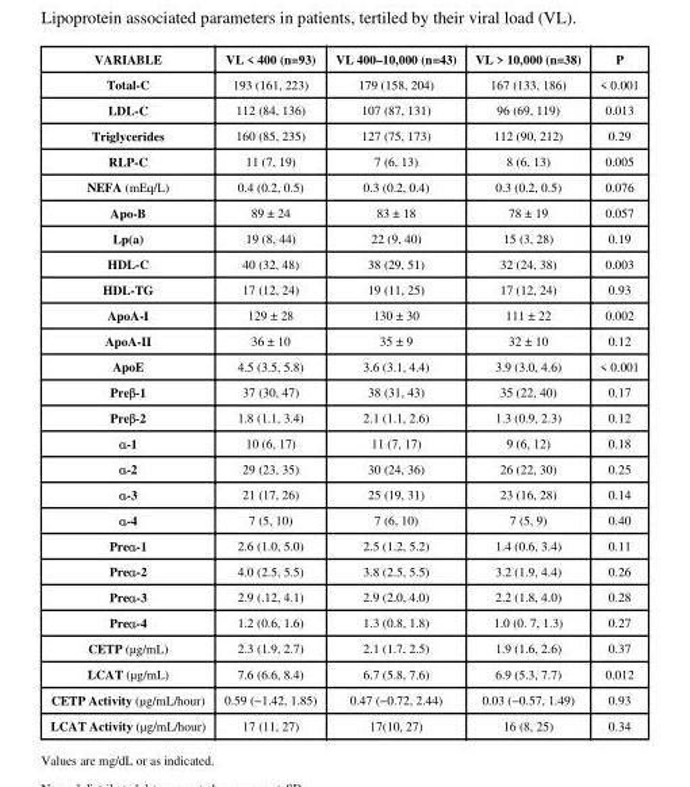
<table><thead><tr><td>VARIABLE</td><td>VL &lt; 400 (n=93)</td><td>VL 400–10,000 (n=43)</td><td>VL &gt; 10,000 (n=38)</td><td>P</td></tr></thead><tbody><tr><td>Total-C</td><td>193 (161, 223)</td><td>179 (158, 204)</td><td>167 (133, 186)</td><td>&lt; 0.001</td></tr><tr><td>LDL-C</td><td>112 (84, 136)</td><td>107 (87, 131)</td><td>96 (69, 119)</td><td>0.013</td></tr><tr><td>Triglycerides</td><td>160 (85, 235)</td><td>127 (75, 173)</td><td>112 (90, 212)</td><td>0.29</td></tr><tr><td>RLP-C</td><td>11 (7, 19)</td><td>7 (6, 13)</td><td>8 (6, 13)</td><td>0.005</td></tr><tr><td>NEFA (mEq/L)</td><td>0.4 (0.2, 0.5)</td><td>0.3 (0.2, 0.4)</td><td>0.3 (0.2, 0.5)</td><td>0.076</td></tr><tr><td>Apo-B</td><td>89 ± 24</td><td>83 ± 18</td><td>78 ± 19</td><td>0.057</td></tr><tr><td>Lp(a)</td><td>19 (8, 44)</td><td>22 (9, 40)</td><td>15 (3, 28)</td><td>0.19</td></tr><tr><td>HDL-C</td><td>40 (32, 48)</td><td>38 (29, 51)</td><td>32 (24, 38)</td><td>0.003</td></tr><tr><td>HDL-TG</td><td>17 (12, 24)</td><td>19 (11, 25)</td><td>17 (12, 24)</td><td>0.93</td></tr><tr><td>ApoA-I</td><td>129 ± 28</td><td>130 ± 30</td><td>111 ± 22</td><td>0.002</td></tr><tr><td>ApoA-II</td><td>36 ± 10</td><td>35 ± 9</td><td>32 ± 10</td><td>0.12</td></tr><tr><td>ApoE</td><td>4.5 (3.5, 5.8)</td><td>3.6 (3.1, 4.4)</td><td>3.9 (3.0, 4.6)</td><td>&lt; 0.001</td></tr><tr><td>Preβ-1</td><td>37 (30, 47)</td><td>38 (31, 43)</td><td>35 (22, 40)</td><td>0.17</td></tr><tr><td>Preβ-2</td><td>1.8 (1.1, 3.4)</td><td>2.1 (1.1, 2.6)</td><td>1.3 (0.9, 2.3)</td><td>0.12</td></tr><tr><td>α-1</td><td>10 (6, 17)</td><td>11 (7, 17)</td><td>9 (6, 12)</td><td>0.18</td></tr><tr><td>α-2</td><td>29 (23, 35)</td><td>30 (24, 36)</td><td>26 (22, 30)</td><td>0.25</td></tr><tr><td>α-3</td><td>21 (17, 26)</td><td>25 (19, 31)</td><td>23 (16, 28)</td><td>0.14</td></tr><tr><td>α-4</td><td>7 (5, 10)</td><td>7 (6, 10)</td><td>7 (5, 9)</td><td>0.40</td></tr><tr><td>Preα-1</td><td>2.6 (1.0, 5.0)</td><td>2.5 (1.2, 5.2)</td><td>1.4 (0.6, 3.4)</td><td>0.11</td></tr><tr><td>Preα-2</td><td>4.0 (2.5, 5.5)</td><td>3.8 (2.5, 5.5)</td><td>3.2 (1.9, 4.4)</td><td>0.26</td></tr><tr><td>Preα-3</td><td>2.9 (.12, 4.1)</td><td>2.9 (2.0, 4.0)</td><td>2.2 (1.8, 4.0)</td><td>0.28</td></tr><tr><td>Preα-4</td><td>1.2 (0.6, 1.6)</td><td>1.3 (0.8, 1.8)</td><td>1.0 (0. 7, 1.3)</td><td>0.27</td></tr><tr><td>CETP (μg/mL)</td><td>2.3 (1.9, 2.7)</td><td>2.1 (1.7, 2.5)</td><td>1.9 (1.6, 2.6)</td><td>0.37</td></tr><tr><td>LCAT (μg/mL)</td><td>7.6 (6.6, 8.4)</td><td>6.7 (5.8, 7.6)</td><td>6.9 (5.3, 7.7)</td><td>0.012</td></tr><tr><td>CETP Activity (μg/mL/hour)</td><td>0.59 (−1.42, 1.85)</td><td>0.47 (−0.72, 2.44)</td><td>0.03 (−0.57, 1.49)</td><td>0.93</td></tr><tr><td>LCAT Activity (μg/mL/hour)</td><td>17 (11, 27)</td><td>17(10, 27)</td><td>16 (8, 25)</td><td>0.34</td></tr></tbody></table>